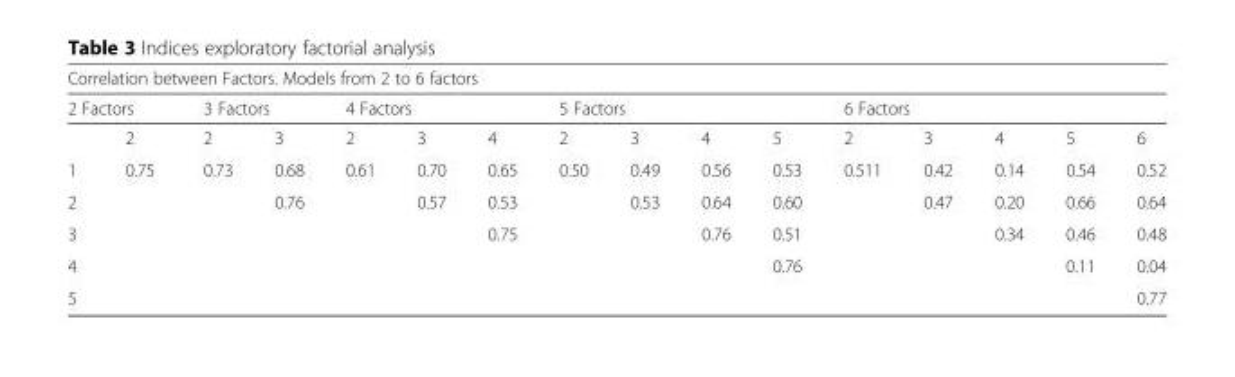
<table><thead><tr><td colspan="16">Correlation between Factors. Models from 2 to 6 factors</td></tr><tr><td colspan="2">2 Factors</td><td colspan="2">3 Factors</td><td colspan="3">4 Factors</td><td colspan="4">5 Factors</td><td colspan="5">6 Factors</td></tr><tr><td></td><td>2</td><td>2</td><td>3</td><td>2</td><td>3</td><td>4</td><td>2</td><td>3</td><td>4</td><td>5</td><td>2</td><td>3</td><td>4</td><td>5</td><td>6</td></tr></thead><tbody><tr><td>1</td><td>0.75</td><td>0.73</td><td>0.68</td><td>0.61</td><td>0.70</td><td>0.65</td><td>0.50</td><td>0.49</td><td>0.56</td><td>0.53</td><td>0.511</td><td>0.42</td><td>0.14</td><td>0.54</td><td>0.52</td></tr><tr><td>2</td><td></td><td></td><td>0.76</td><td></td><td>0.57</td><td>0.53</td><td></td><td>0.53</td><td>0.64</td><td>0.60</td><td></td><td>0.47</td><td>0.20</td><td>0.66</td><td>0.64</td></tr><tr><td>3</td><td></td><td></td><td></td><td></td><td></td><td>0.75</td><td></td><td></td><td>0.76</td><td>0.51</td><td></td><td></td><td>0.34</td><td>0.46</td><td>0.48</td></tr><tr><td>4</td><td></td><td></td><td></td><td></td><td></td><td></td><td></td><td></td><td></td><td>0.76</td><td></td><td></td><td></td><td>0.11</td><td>0.04</td></tr><tr><td>5</td><td></td><td></td><td></td><td></td><td></td><td></td><td></td><td></td><td></td><td></td><td></td><td></td><td></td><td></td><td>0.77</td></tr></tbody></table>